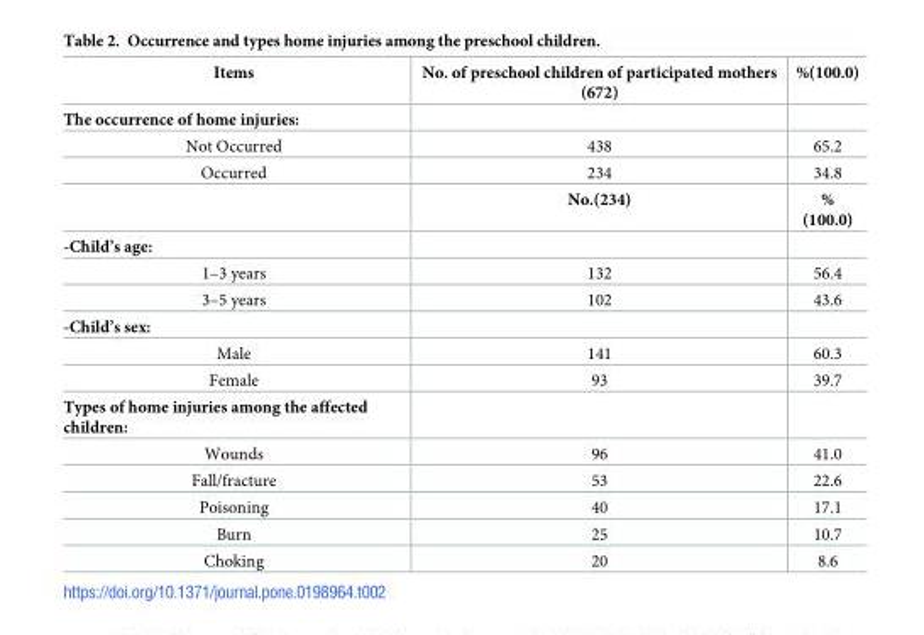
<table><thead><tr><td>Items</td><td>No. of preschool children of participated mothers (672)</td><td>%(100.0)</td></tr></thead><tbody><tr><td colspan="3">The occurrence of home injuries:</td></tr><tr><td>Not Occurred</td><td>438</td><td>65.2</td></tr><tr><td rowspan="2">Occurred</td><td>234</td><td>34.8</td></tr><tr><td>No.(234)</td><td>% (100.0)</td></tr><tr><td colspan="3">-Child’s age:</td></tr><tr><td>1–3 years</td><td>132</td><td>56.4</td></tr><tr><td>3–5 years</td><td>102</td><td>43.6</td></tr><tr><td colspan="3">-Child’s sex:</td></tr><tr><td>Male</td><td>141</td><td>60.3</td></tr><tr><td>Female</td><td>93</td><td>39.7</td></tr><tr><td colspan="3">Types of home injuries among the affected children:</td></tr><tr><td>Wounds</td><td>96</td><td>41.0</td></tr><tr><td>Fall/fracture</td><td>53</td><td>22.6</td></tr><tr><td>Poisoning</td><td>40</td><td>17.1</td></tr><tr><td>Burn</td><td>25</td><td>10.7</td></tr><tr><td>Choking</td><td>20</td><td>8.6</td></tr></tbody></table>